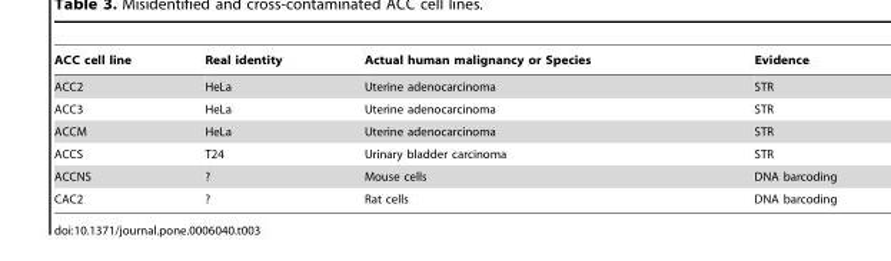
<table><thead><tr><td>ACC cell line</td><td>Real identity</td><td>Actual human malignancy or Species</td><td>Evidence</td></tr></thead><tbody><tr><td>ACC2</td><td>HeLa</td><td>Uterine adenocarcinoma</td><td>STR</td></tr><tr><td>ACC3</td><td>HeLa</td><td>Uterine adenocarcinoma</td><td>STR</td></tr><tr><td>ACCM</td><td>HeLa</td><td>Uterine adenocarcinoma</td><td>STR</td></tr><tr><td>ACCS</td><td>T24</td><td>Urinary bladder carcinoma</td><td>STR</td></tr><tr><td>ACCNS</td><td>?</td><td>Mouse cells</td><td>DNA barcoding</td></tr><tr><td>CAC2</td><td>?</td><td>Rat cells</td><td>DNA barcoding</td></tr></tbody></table>